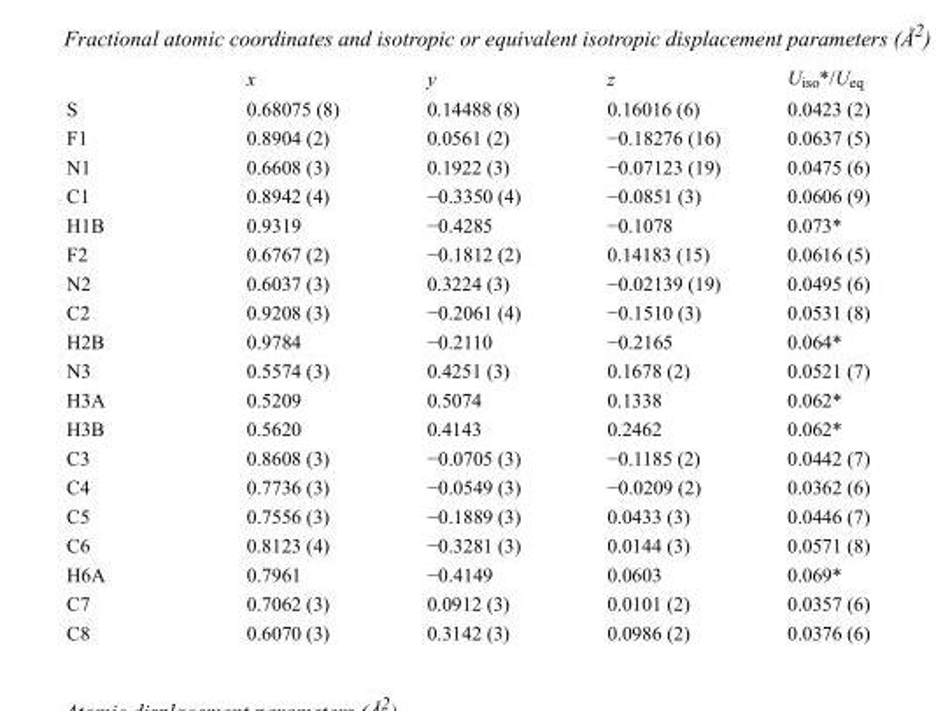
<table><thead><tr><td></td><td>x</td><td>y</td><td>z</td><td>U<sub>iso</sub>*/U<sub>eq</sub></td></tr></thead><tbody><tr><td>S</td><td>0.68075 (8)</td><td>0.14488 (8)</td><td>0.16016 (6)</td><td>0.0423 (2)</td></tr><tr><td>F1</td><td>0.8904 (2)</td><td>0.0561 (2)</td><td>−0.18276 (16)</td><td>0.0637 (5)</td></tr><tr><td>N1</td><td>0.6608 (3)</td><td>0.1922 (3)</td><td>−0.07123 (19)</td><td>0.0475 (6)</td></tr><tr><td>C1</td><td>0.8942 (4)</td><td>−0.3350 (4)</td><td>−0.0851 (3)</td><td>0.0606 (9)</td></tr><tr><td>H1B</td><td>0.9319</td><td>−0.4285</td><td>−0.1078</td><td>0.073*</td></tr><tr><td>F2</td><td>0.6767 (2)</td><td>−0.1812 (2)</td><td>0.14183 (15)</td><td>0.0616 (5)</td></tr><tr><td>N2</td><td>0.6037 (3)</td><td>0.3224 (3)</td><td>−0.02139 (19)</td><td>0.0495 (6)</td></tr><tr><td>C2</td><td>0.9208 (3)</td><td>−0.2061 (4)</td><td>−0.1510 (3)</td><td>0.0531 (8)</td></tr><tr><td>H2B</td><td>0.9784</td><td>−0.2110</td><td>−0.2165</td><td>0.064*</td></tr><tr><td>N3</td><td>0.5574 (3)</td><td>0.4251 (3)</td><td>0.1678 (2)</td><td>0.0521 (7)</td></tr><tr><td>H3A</td><td>0.5209</td><td>0.5074</td><td>0.1338</td><td>0.062*</td></tr><tr><td>H3B</td><td>0.5620</td><td>0.4143</td><td>0.2462</td><td>0.062*</td></tr><tr><td>C3</td><td>0.8608 (3)</td><td>−0.0705 (3)</td><td>−0.1185 (2)</td><td>0.0442 (7)</td></tr><tr><td>C4</td><td>0.7736 (3)</td><td>−0.0549 (3)</td><td>−0.0209 (2)</td><td>0.0362 (6)</td></tr><tr><td>C5</td><td>0.7556 (3)</td><td>−0.1889 (3)</td><td>0.0433 (3)</td><td>0.0446 (7)</td></tr><tr><td>C6</td><td>0.8123 (4)</td><td>−0.3281 (3)</td><td>0.0144 (3)</td><td>0.0571 (8)</td></tr><tr><td>H6A</td><td>0.7961</td><td>−0.4149</td><td>0.0603</td><td>0.069*</td></tr><tr><td>C7</td><td>0.7062 (3)</td><td>0.0912 (3)</td><td>0.0101 (2)</td><td>0.0357 (6)</td></tr><tr><td>C8</td><td>0.6070 (3)</td><td>0.3142 (3)</td><td>0.0986 (2)</td><td>0.0376 (6)</td></tr></tbody></table>